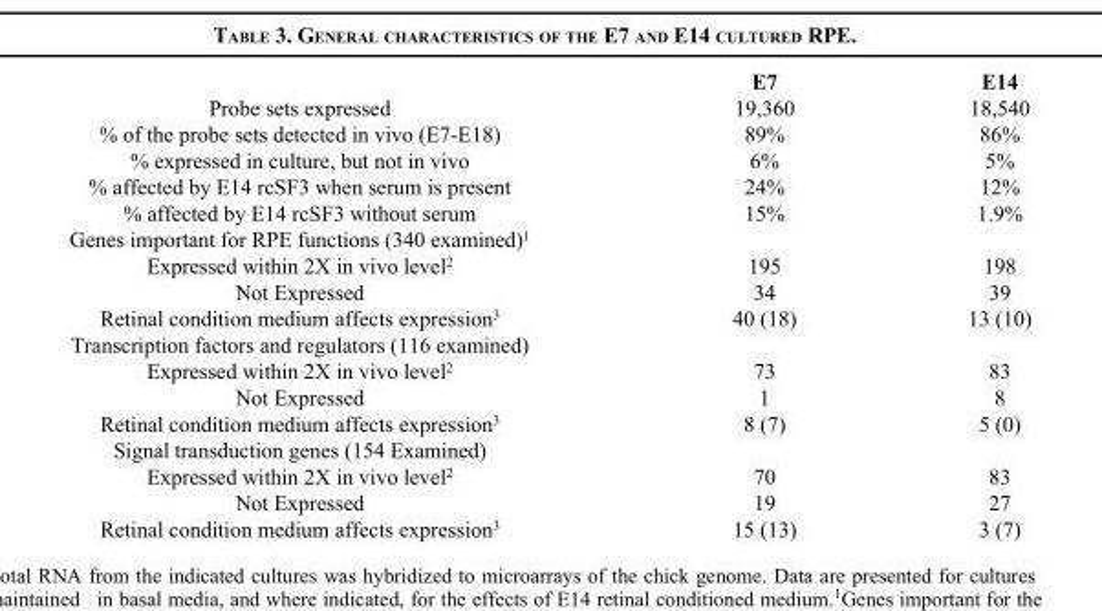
<table><thead><tr><td></td><td>E7</td><td>E14</td></tr></thead><tbody><tr><td>Probe sets expressed</td><td>19,360</td><td>18,540</td></tr><tr><td>% of the probe sets detected in vivo (E7-E18)</td><td>89%</td><td>86%</td></tr><tr><td>% expressed in culture, but not in vivo</td><td>6%</td><td>5%</td></tr><tr><td>% affected by E14 rcSF3 when serum is present</td><td>24%</td><td>12%</td></tr><tr><td>% affected by E14 rcSF3 without serum</td><td>15%</td><td>1.9%</td></tr><tr><td colspan="3">Genes important for RPE functions (340 examined)<sup>1</sup></td></tr><tr><td>Expressed within 2X in vivo level<sup>2</sup></td><td>195</td><td>198</td></tr><tr><td>Not Expressed</td><td>34</td><td>39</td></tr><tr><td>Retinal condition medium affects expression<sup>3</sup></td><td>40 (18)</td><td>13 (10)</td></tr><tr><td colspan="3">Transcription factors and regulators (116 examined)</td></tr><tr><td>Expressed within 2X in vivo level<sup>2</sup></td><td>73</td><td>83</td></tr><tr><td>Not Expressed</td><td>1</td><td>8</td></tr><tr><td>Retinal condition medium affects expression<sup>3</sup></td><td>8 (7)</td><td>5 (0)</td></tr><tr><td colspan="3">Signal transduction genes (154 Examined)</td></tr><tr><td>Expressed within 2X in vivo level<sup>2</sup></td><td>70</td><td>83</td></tr><tr><td>Not Expressed</td><td>19</td><td>27</td></tr><tr><td>Retinal condition medium affects expression<sup>3</sup></td><td>15 (13)</td><td>3 (7)</td></tr></tbody></table>